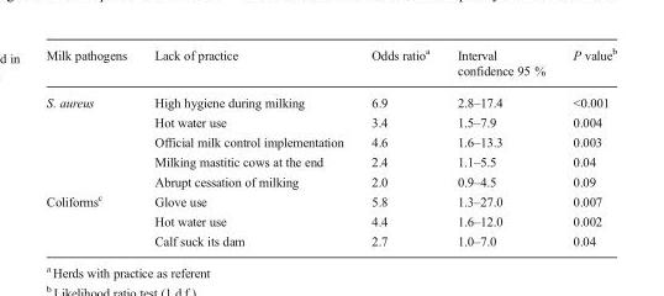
<table><thead><tr><td>Milk pathogens</td><td>Lack of practice</td><td>Odds ratio<sup>a</sup></td><td>Interval confidence 95 %</td><td>P value<sup>b</sup></td></tr></thead><tbody><tr><td rowspan="5">S. aureus</td><td>High hygiene during milking</td><td>6.9</td><td>2.8–17.4</td><td>&lt;0.001</td></tr><tr><td>Hot water use</td><td>3.4</td><td>1.5–7.9</td><td>0.004</td></tr><tr><td>Official milk control implementation</td><td>4.6</td><td>1.6–13.3</td><td>0.003</td></tr><tr><td>Milking mastitic cows at the end</td><td>2.4</td><td>1.1–5.5</td><td>0.04</td></tr><tr><td>Abrupt cessation of milking</td><td>2.0</td><td>0.9–4.5</td><td>0.09</td></tr><tr><td rowspan="3">Coliforms<sup>c</sup></td><td>Glove use</td><td>5.8</td><td>1.3–27.0</td><td>0.007</td></tr><tr><td>Hot water use</td><td>4.4</td><td>1.6–12.0</td><td>0.002</td></tr><tr><td>Calf suck its dam</td><td>2.7</td><td>1.0–7.0</td><td>0.04</td></tr></tbody></table>